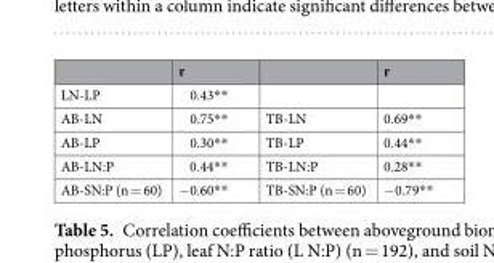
<table><thead><tr><td></td><td>r</td><td></td><td>r</td></tr></thead><tbody><tr><td>LN-LP</td><td>0.43**</td><td></td><td></td></tr><tr><td>AB-LN</td><td>0.75**</td><td>TB-LN</td><td>0.69**</td></tr><tr><td>AB-LP</td><td>0.30**</td><td>TB-LP</td><td>0.44**</td></tr><tr><td>AB-LN:P</td><td>0.44**</td><td>TB-LN:P</td><td>0.28**</td></tr><tr><td>AB-SN:P (n = 60)</td><td>−0.60**</td><td>TB-SN:P (n = 60)</td><td>−0.79**</td></tr></tbody></table>